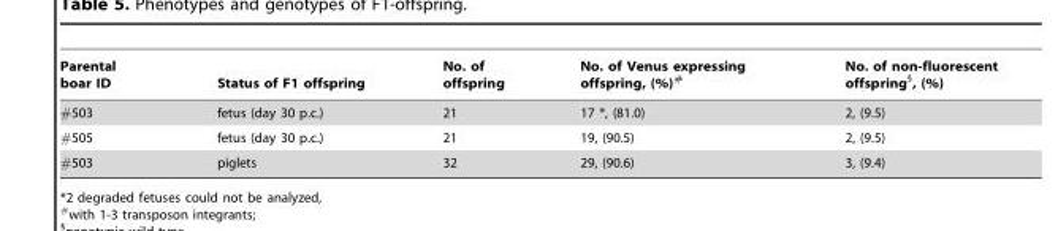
<table><thead><tr><td>Parental boar ID</td><td>Status of F1 offspring</td><td>No. of offspring</td><td>No. of Venus expressing offspring, (%)#</td><td>No. of non-fluorescent offspring§, (%)</td></tr></thead><tbody><tr><td>#503</td><td>fetus (day 30 p.c.)</td><td>21</td><td>17 *, (81.0)</td><td>2, (9.5)</td></tr><tr><td>#505</td><td>fetus (day 30 p.c.)</td><td>21</td><td>19, (90.5)</td><td>2, (9.5)</td></tr><tr><td>#503</td><td>piglets</td><td>32</td><td>29, (90.6)</td><td>3, (9.4)</td></tr></tbody></table>